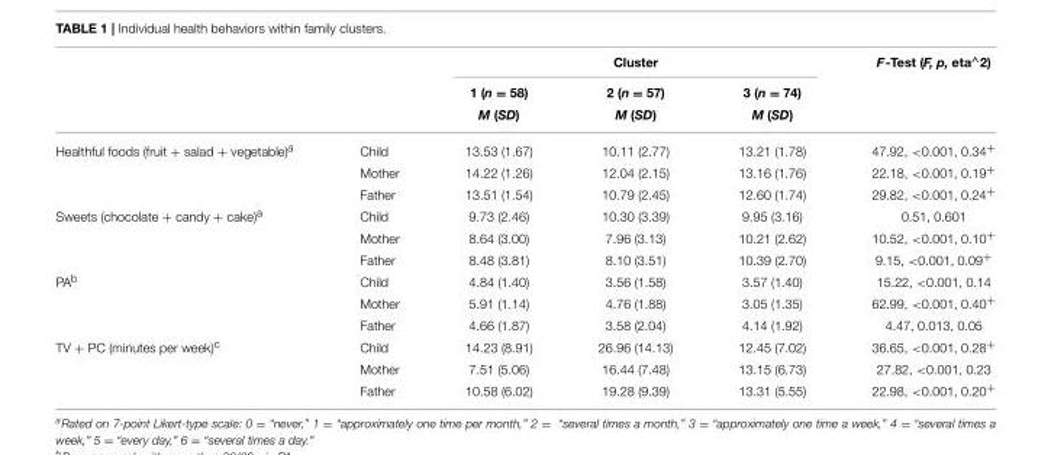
<table><thead><tr><td rowspan="3"></td><td rowspan="3"></td><td colspan="3">Cluster</td><td rowspan="3">F-Test (F, p, eta<sup>∧</sup>2)</td></tr><tr><td rowspan="2">1 (n = 58) M (SD)</td><td rowspan="2">2 (n = 57) M (SD)</td><td rowspan="2">3 (n = 74) M (SD)</td></tr><tr></tr></thead><tbody><tr><td rowspan="3">Healthful foods (fruit + salad + vegetable)<sup>a</sup></td><td>Child</td><td>13.53 (1.67)</td><td>10.11 (2.77)</td><td>13.21 (1.78)</td><td>47.92, &lt;0.001, 0.34<sup>+</sup></td></tr><tr><td>Mother</td><td>14.22 (1.26)</td><td>12.04 (2.15)</td><td>13.16 (1.76)</td><td>22.18, &lt;0.001, 0.19<sup>+</sup></td></tr><tr><td>Father</td><td>13.51 (1.54)</td><td>10.79 (2.45)</td><td>12.60 (1.74)</td><td>29.82, &lt;0.001, 0.24<sup>+</sup></td></tr><tr><td rowspan="3">Sweets (chocolate + candy + cake)<sup>a</sup></td><td>Child</td><td>9.73 (2.46)</td><td>10.30 (3.39)</td><td>9.95 (3.16)</td><td>0.51, 0.601</td></tr><tr><td>Mother</td><td>8.64 (3.00)</td><td>7.96 (3.13)</td><td>10.21 (2.62)</td><td>10.52, &lt;0.001, 0.10<sup>+</sup></td></tr><tr><td>Father</td><td>8.48 (3.81)</td><td>8.10 (3.51)</td><td>10.39 (2.70)</td><td>9.15, &lt;0.001, 0.09<sup>+</sup></td></tr><tr><td rowspan="3">PA<sup>b</sup></td><td>Child</td><td>4.84 (1.40)</td><td>3.56 (1.58)</td><td>3.57 (1.40)</td><td>15.22, &lt;0.001, 0.14</td></tr><tr><td>Mother</td><td>5.91 (1.14)</td><td>4.76 (1.88)</td><td>3.05 (1.35)</td><td>62.99, &lt;0.001, 0.40<sup>+</sup></td></tr><tr><td>Father</td><td>4.66 (1.87)</td><td>3.58 (2.04)</td><td>4.14 (1.92)</td><td>4.47, 0.013, 0.05</td></tr><tr><td rowspan="3">TV + PC (minutes per week)<sup>c</sup></td><td>Child</td><td>14.23 (8.91)</td><td>26.96 (14.13)</td><td>12.45 (7.02)</td><td>36.65, &lt;0.001, 0.28<sup>+</sup></td></tr><tr><td>Mother</td><td>7.51 (5.06)</td><td>16.44 (7.48)</td><td>13.15 (6.73)</td><td>27.82, &lt;0.001, 0.23</td></tr><tr><td>Father</td><td>10.58 (6.02)</td><td>19.28 (9.39)</td><td>13.31 (5.55)</td><td>22.98, &lt;0.001, 0.20<sup>+</sup></td></tr></tbody></table>